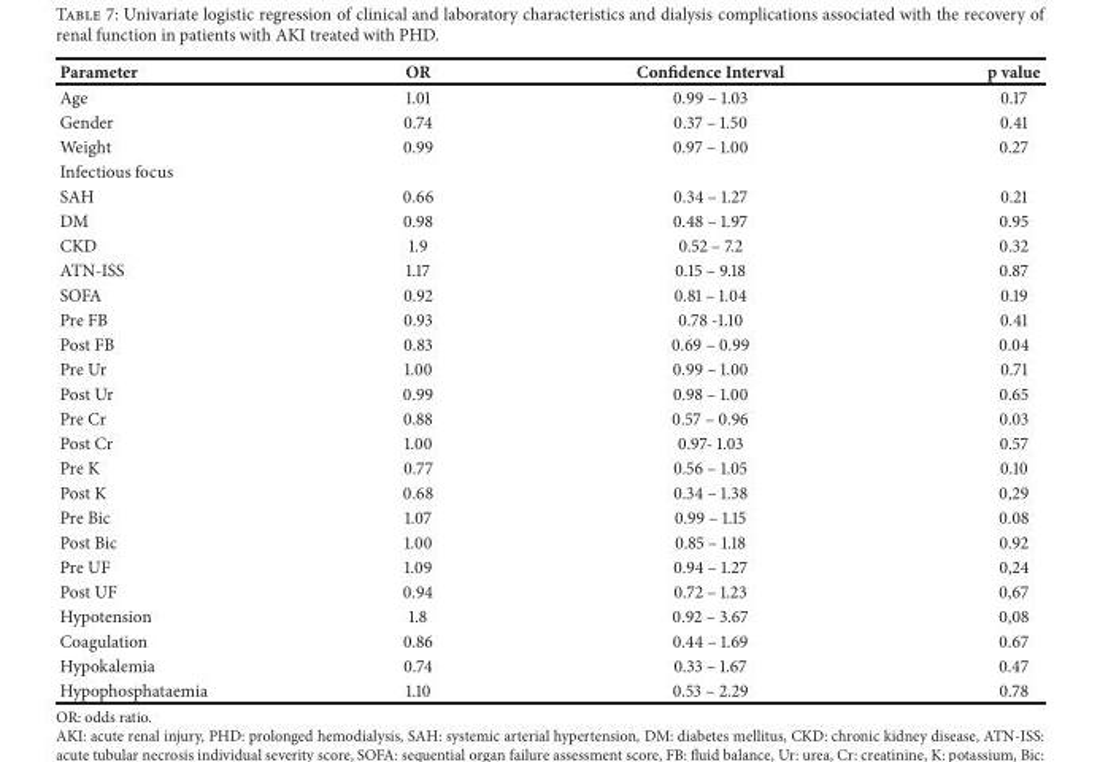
<table><thead><tr><td>Parameter</td><td>OR</td><td>Confidence Interval</td><td>p value</td></tr></thead><tbody><tr><td>Age</td><td>1.01</td><td>0.99 – 1.03</td><td>0.17</td></tr><tr><td>Gender</td><td>0.74</td><td>0.37 – 1.50</td><td>0.41</td></tr><tr><td>Weight</td><td>0.99</td><td>0.97 – 1.00</td><td>0.27</td></tr><tr><td colspan="4">Infectious focus</td></tr><tr><td>SAH</td><td>0.66</td><td>0.34 – 1.27</td><td>0.21</td></tr><tr><td>DM</td><td>0.98</td><td>0.48 – 1.97</td><td>0.95</td></tr><tr><td>CKD</td><td>1.9</td><td>0.52 – 7.2</td><td>0.32</td></tr><tr><td>ATN-ISS</td><td>1.17</td><td>0.15 – 9.18</td><td>0.87</td></tr><tr><td>SOFA</td><td>0.92</td><td>0.81 – 1.04</td><td>0.19</td></tr><tr><td>Pre FB</td><td>0.93</td><td>0.78 -1.10</td><td>0.41</td></tr><tr><td>Post FB</td><td>0.83</td><td>0.69 – 0.99</td><td>0.04</td></tr><tr><td>Pre Ur</td><td>1.00</td><td>0.99 – 1.00</td><td>0.71</td></tr><tr><td>Post Ur</td><td>0.99</td><td>0.98 – 1.00</td><td>0.65</td></tr><tr><td>Pre Cr</td><td>0.88</td><td>0.57 – 0.96</td><td>0.03</td></tr><tr><td>Post Cr</td><td>1.00</td><td>0.97- 1.03</td><td>0.57</td></tr><tr><td>Pre K</td><td>0.77</td><td>0.56 – 1.05</td><td>0.10</td></tr><tr><td>Post K</td><td>0.68</td><td>0.34 – 1.38</td><td>0,29</td></tr><tr><td>Pre Bic</td><td>1.07</td><td>0.99 – 1.15</td><td>0.08</td></tr><tr><td>Post Bic</td><td>1.00</td><td>0.85 – 1.18</td><td>0.92</td></tr><tr><td>Pre UF</td><td>1.09</td><td>0.94 – 1.27</td><td>0,24</td></tr><tr><td>Post UF</td><td>0.94</td><td>0.72 – 1.23</td><td>0,67</td></tr><tr><td>Hypotension</td><td>1.8</td><td>0.92 – 3.67</td><td>0,08</td></tr><tr><td>Coagulation</td><td>0.86</td><td>0.44 – 1.69</td><td>0.67</td></tr><tr><td>Hypokalemia</td><td>0.74</td><td>0.33 – 1.67</td><td>0.47</td></tr><tr><td>Hypophosphataemia</td><td>1.10</td><td>0.53 – 2.29</td><td>0.78</td></tr></tbody></table>